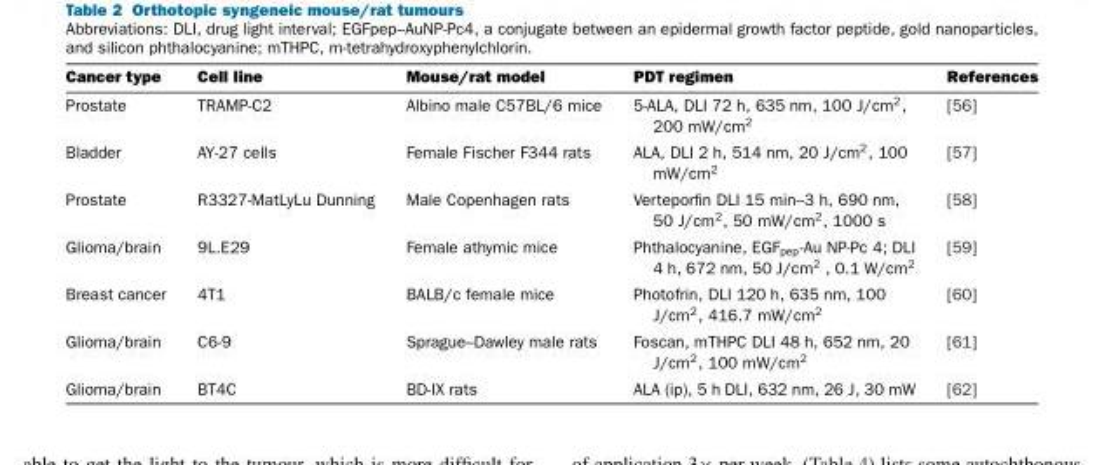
<table><thead><tr><td>Cancer type</td><td>Cell line</td><td>Mouse/rat model</td><td>PDT regimen</td><td>References</td></tr></thead><tbody><tr><td>Prostate</td><td>TRAMP-C2</td><td>Albino male C57BL/6 mice</td><td>5-ALA, DLI 72 h, 635 nm, 100 J/cm2, 200 mW/cm2</td><td>[56]</td></tr><tr><td>Bladder</td><td>AY-27 cells</td><td>Female Fischer F344 rats</td><td>ALA, DLI 2 h, 514 nm, 20 J/cm2, 100 mW/cm2</td><td>[57]</td></tr><tr><td>Prostate</td><td>R3327-MatLyLu Dunning</td><td>Male Copenhagen rats</td><td>Verteporfin DLI 15 min–3 h, 690 nm, 50 J/cm2, 50 mW/cm2, 1000 s</td><td>[58]</td></tr><tr><td>Glioma/brain</td><td>9L.E29</td><td>Female athymic mice</td><td>Phthalocyanine, EGFpep-Au NP-Pc 4; DLI 4 h, 672 nm, 50 J/cm2 , 0.1 W/cm2</td><td>[59]</td></tr><tr><td>Breast cancer</td><td>4T1</td><td>BALB/c female mice</td><td>Photofrin, DLI 120 h, 635 nm, 100 J/cm2, 416.7 mW/cm2</td><td>[60]</td></tr><tr><td>Glioma/brain</td><td>C6-9</td><td>Sprague–Dawley male rats</td><td>Foscan, mTHPC DLI 48 h, 652 nm, 20 J/cm2, 100 mW/cm2</td><td>[61]</td></tr><tr><td>Glioma/brain</td><td>BT4C</td><td>BD-IX rats</td><td>ALA (ip), 5 h DLI, 632 nm, 26 J, 30 mW</td><td>[62]</td></tr></tbody></table>